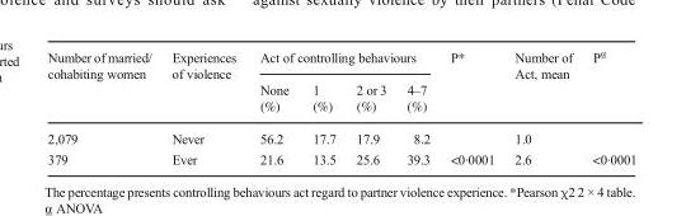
<table><thead><tr><td rowspan="2">Number of married/ cohabiting women</td><td rowspan="2">Experiences of violence</td><td colspan="4">Act of controlling behaviours</td><td rowspan="2">P*</td><td rowspan="2">Number of Act, mean</td><td rowspan="2">P<sup>⍶</sup></td></tr><tr><td>None (%)</td><td>1 (%)</td><td>2 or 3 (%)</td><td>4–7 (%)</td></tr></thead><tbody><tr><td>2,079</td><td>Never</td><td>56.2</td><td>17.7</td><td>17.9</td><td>8.2</td><td></td><td>1.0</td><td></td></tr><tr><td>379</td><td>Ever</td><td>21.6</td><td>13.5</td><td>25.6</td><td>39.3</td><td>&lt;0·0001</td><td>2.6</td><td>&lt;0·0001</td></tr></tbody></table>